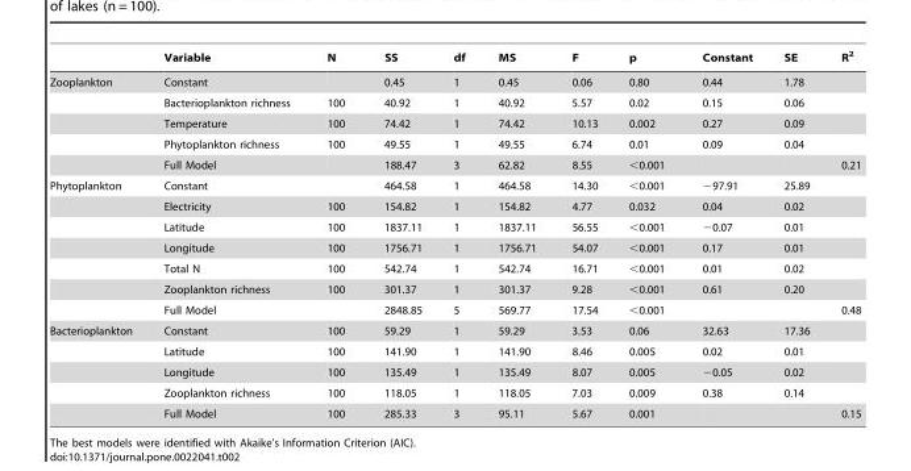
<table><thead><tr><td></td><td>Variable</td><td>N</td><td>SS</td><td>df</td><td>MS</td><td>F</td><td>p</td><td>Constant</td><td>SE</td><td>R<sup>2</sup></td></tr></thead><tbody><tr><td rowspan="5">Zooplankton</td><td>Constant</td><td></td><td>0.45</td><td>1</td><td>0.45</td><td>0.06</td><td>0.80</td><td>0.44</td><td>1.78</td><td></td></tr><tr><td>Bacterioplankton richness</td><td>100</td><td>40.92</td><td>1</td><td>40.92</td><td>5.57</td><td>0.02</td><td>0.15</td><td>0.06</td><td></td></tr><tr><td>Temperature</td><td>100</td><td>74.42</td><td>1</td><td>74.42</td><td>10.13</td><td>0.002</td><td>0.27</td><td>0.09</td><td></td></tr><tr><td>Phytoplankton richness</td><td>100</td><td>49.55</td><td>1</td><td>49.55</td><td>6.74</td><td>0.01</td><td>0.09</td><td>0.04</td><td></td></tr><tr><td>Full Model</td><td></td><td>188.47</td><td>3</td><td>62.82</td><td>8.55</td><td>&lt;0.001</td><td></td><td></td><td>0.21</td></tr><tr><td rowspan="7">Phytoplankton</td><td>Constant</td><td></td><td>464.58</td><td>1</td><td>464.58</td><td>14.30</td><td>&lt;0.001</td><td>−97.91</td><td>25.89</td><td></td></tr><tr><td>Electricity</td><td>100</td><td>154.82</td><td>1</td><td>154.82</td><td>4.77</td><td>0.032</td><td>0.04</td><td>0.02</td><td></td></tr><tr><td>Latitude</td><td>100</td><td>1837.11</td><td>1</td><td>1837.11</td><td>56.55</td><td>&lt;0.001</td><td>−0.07</td><td>0.01</td><td></td></tr><tr><td>Longitude</td><td>100</td><td>1756.71</td><td>1</td><td>1756.71</td><td>54.07</td><td>&lt;0.001</td><td>0.17</td><td>0.01</td><td></td></tr><tr><td>Total N</td><td>100</td><td>542.74</td><td>1</td><td>542.74</td><td>16.71</td><td>&lt;0.001</td><td>0.01</td><td>0.02</td><td></td></tr><tr><td>Zooplankton richness</td><td>100</td><td>301.37</td><td>1</td><td>301.37</td><td>9.28</td><td>&lt;0.001</td><td>0.61</td><td>0.20</td><td></td></tr><tr><td>Full Model</td><td></td><td>2848.85</td><td>5</td><td>569.77</td><td>17.54</td><td>&lt;0.001</td><td></td><td></td><td>0.48</td></tr><tr><td rowspan="5">Bacterioplankton</td><td>Constant</td><td>100</td><td>59.29</td><td>1</td><td>59.29</td><td>3.53</td><td>0.06</td><td>32.63</td><td>17.36</td><td></td></tr><tr><td>Latitude</td><td>100</td><td>141.90</td><td>1</td><td>141.90</td><td>8.46</td><td>0.005</td><td>0.02</td><td>0.01</td><td></td></tr><tr><td>Longitude</td><td>100</td><td>135.49</td><td>1</td><td>135.49</td><td>8.07</td><td>0.005</td><td>−0.05</td><td>0.02</td><td></td></tr><tr><td>Zooplankton richness</td><td>100</td><td>118.05</td><td>1</td><td>118.05</td><td>7.03</td><td>0.009</td><td>0.38</td><td>0.14</td><td></td></tr><tr><td>Full Model</td><td>100</td><td>285.33</td><td>3</td><td>95.11</td><td>5.67</td><td>0.001</td><td></td><td></td><td>0.15</td></tr></tbody></table>